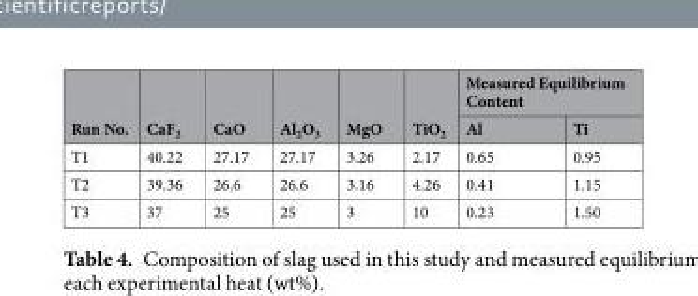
<table><thead><tr><td rowspan="2">Run No.</td><td rowspan="2">CaF<sub>2</sub></td><td rowspan="2">CaO</td><td rowspan="2">Al<sub>2</sub>O<sub>3</sub></td><td rowspan="2">MgO</td><td rowspan="2">TiO<sub>2</sub></td><td colspan="2">Measured Equilibrium Content</td></tr><tr><td>Al</td><td>Ti</td></tr></thead><tbody><tr><td>T1</td><td>40.22</td><td>27.17</td><td>27.17</td><td>3.26</td><td>2.17</td><td>0.65</td><td>0.95</td></tr><tr><td>T2</td><td>39.36</td><td>26.6</td><td>26.6</td><td>3.16</td><td>4.26</td><td>0.41</td><td>1.15</td></tr><tr><td>T3</td><td>37</td><td>25</td><td>25</td><td>3</td><td>10</td><td>0.23</td><td>1.50</td></tr></tbody></table>